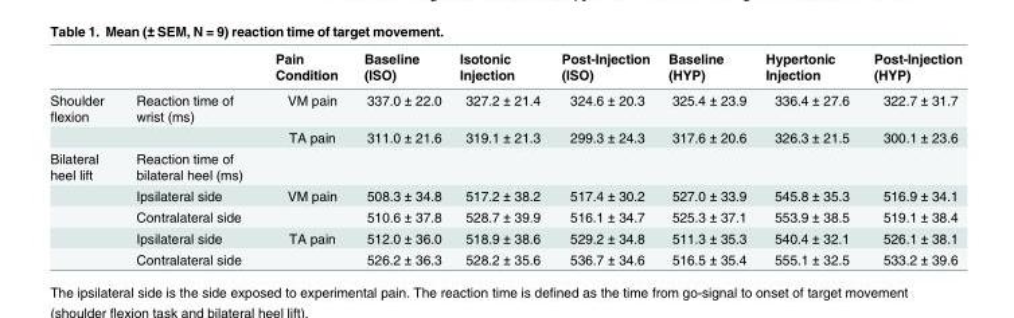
<table><thead><tr><td></td><td></td><td>Pain Condition</td><td>Baseline (ISO)</td><td>Isotonic Injection</td><td>Post-Injection (ISO)</td><td>Baseline (HYP)</td><td>Hypertonic Injection</td><td>Post-Injection (HYP)</td></tr></thead><tbody><tr><td rowspan="2">Shoulder flexion</td><td>Reaction time of wrist (ms)</td><td>VM pain</td><td>337.0 ± 22.0</td><td>327.2 ± 21.4</td><td>324.6 ± 20.3</td><td>325.4 ± 23.9</td><td>336.4 ± 27.6</td><td>322.7 ± 31.7</td></tr><tr><td></td><td>TA pain</td><td>311.0 ± 21.6</td><td>319.1 ± 21.3</td><td>299.3 ± 24.3</td><td>317.6 ± 20.6</td><td>326.3 ± 21.5</td><td>300.1 ± 23.6</td></tr><tr><td rowspan="5">Bilateral heel lift</td><td>Reaction time of bilateral heel (ms)</td><td></td><td></td><td></td><td></td><td></td><td></td><td></td></tr><tr><td>Ipsilateral side</td><td>VM pain</td><td>508.3 ± 34.8</td><td>517.2 ± 38.2</td><td>517.4 ± 30.2</td><td>527.0 ± 33.9</td><td>545.8 ± 35.3</td><td>516.9 ± 34.1</td></tr><tr><td>Contralateral side</td><td></td><td>510.6 ± 37.8</td><td>528.7 ± 39.9</td><td>516.1 ± 34.7</td><td>525.3 ± 37.1</td><td>553.9 ± 38.5</td><td>519.1 ± 38.4</td></tr><tr><td>Ipsilateral side</td><td>TA pain</td><td>512.0 ± 36.0</td><td>518.9 ± 38.6</td><td>529.2 ± 34.8</td><td>511.3 ± 35.3</td><td>540.4 ± 32.1</td><td>526.1 ± 38.1</td></tr><tr><td>Contralateral side</td><td></td><td>526.2 ± 36.3</td><td>528.2 ± 35.6</td><td>536.7 ± 34.6</td><td>516.5 ± 35.4</td><td>555.1 ± 32.5</td><td>533.2 ± 39.6</td></tr></tbody></table>